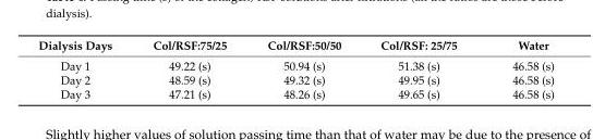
<table><thead><tr><td>Dialysis Days</td><td>Col/RSF:75/25</td><td>Col/RSF:50/50</td><td>Col/RSF: 25/75</td><td>Water</td></tr></thead><tbody><tr><td>Day 1</td><td>49.22 (s)</td><td>50.94 (s)</td><td>51.38 (s)</td><td>46.58 (s)</td></tr><tr><td>Day 2</td><td>48.59 (s)</td><td>49.32 (s)</td><td>49.95 (s)</td><td>46.58 (s)</td></tr><tr><td>Day 3</td><td>47.21 (s)</td><td>48.26 (s)</td><td>49.65 (s)</td><td>46.58 (s)</td></tr></tbody></table>